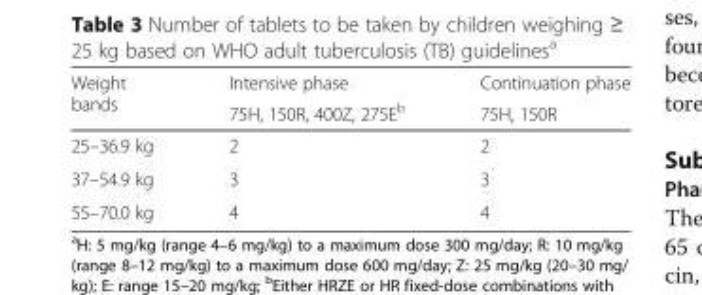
<table><thead><tr><td rowspan="2">Weight bands</td><td rowspan="2">Intensive phase 75H, 150R, 400Z, 275E<sup>b</sup></td><td rowspan="2">Continuation phase 75H, 150R</td></tr><tr></tr></thead><tbody><tr><td>25–36.9 kg</td><td>2</td><td>2</td></tr><tr><td>37–54.9 kg</td><td>3</td><td>3</td></tr><tr><td>55–70.0 kg</td><td>4</td><td>4</td></tr></tbody></table>